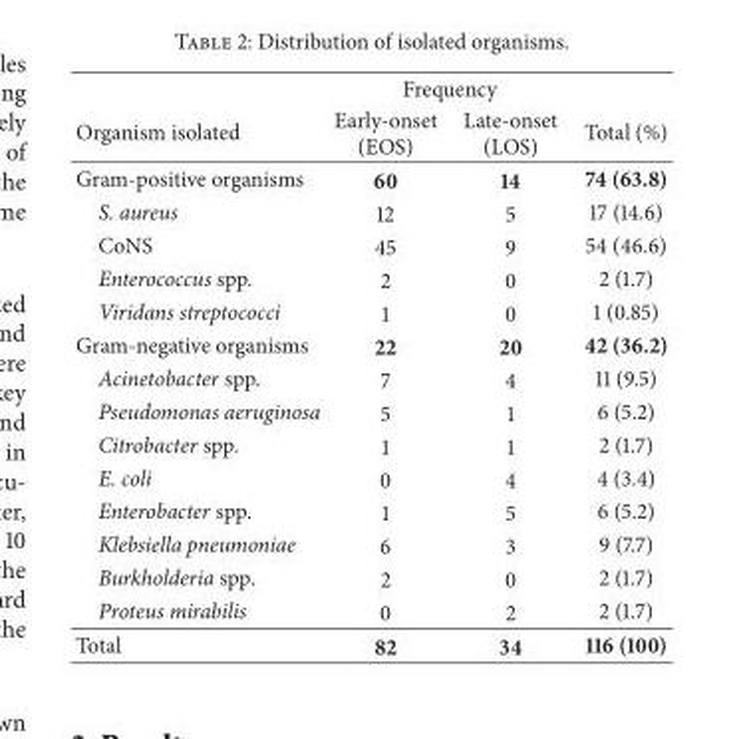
<table><thead><tr><td rowspan="2">Organism isolated</td><td colspan="2">Frequency</td><td rowspan="2">Total (%)</td></tr><tr><td>Early-onset (EOS)</td><td>Late-onset (LOS)</td></tr></thead><tbody><tr><td>Gram-positive organisms</td><td>60</td><td>14</td><td>74 (63.8)</td></tr><tr><td>S. aureus</td><td>12</td><td>5</td><td>17 (14.6)</td></tr><tr><td>CoNS</td><td>45</td><td>9</td><td>54 (46.6)</td></tr><tr><td>Enterococcus spp.</td><td>2</td><td>0</td><td>2 (1.7)</td></tr><tr><td>Viridans streptococci</td><td>1</td><td>0</td><td>1 (0.85)</td></tr><tr><td>Gram-negative organisms</td><td>22</td><td>20</td><td>42 (36.2)</td></tr><tr><td>Acinetobacter spp.</td><td>7</td><td>4</td><td>11 (9.5)</td></tr><tr><td>Pseudomonas aeruginosa</td><td>5</td><td>1</td><td>6 (5.2)</td></tr><tr><td>Citrobacter spp.</td><td>1</td><td>1</td><td>2 (1.7)</td></tr><tr><td>E. coli</td><td>0</td><td>4</td><td>4 (3.4)</td></tr><tr><td>Enterobacter spp.</td><td>1</td><td>5</td><td>6 (5.2)</td></tr><tr><td>Klebsiella pneumoniae</td><td>6</td><td>3</td><td>9 (7.7)</td></tr><tr><td>Burkholderia spp.</td><td>2</td><td>0</td><td>2 (1.7)</td></tr><tr><td>Proteus mirabilis</td><td>0</td><td>2</td><td>2 (1.7)</td></tr><tr><td>Total</td><td>82</td><td>34</td><td>116 (100)</td></tr></tbody></table>